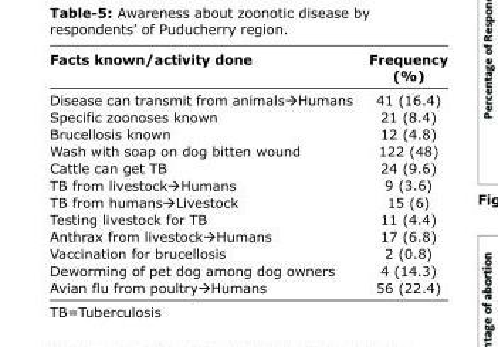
<table><thead><tr><td>Facts known/activity done</td><td>Frequency (%)</td></tr></thead><tbody><tr><td>Disease can transmit from animals→Humans</td><td>41 (16.4)</td></tr><tr><td>Specific zoonoses known</td><td>21 (8.4)</td></tr><tr><td>Brucellosis known</td><td>12 (4.8)</td></tr><tr><td>Wash with soap on dog bitten wound</td><td>122 (48)</td></tr><tr><td>Cattle can get TB</td><td>24 (9.6)</td></tr><tr><td>TB from livestock→Humans</td><td>9 (3.6)</td></tr><tr><td>TB from humans→Livestock</td><td>15 (6)</td></tr><tr><td>Testing livestock for TB</td><td>11 (4.4)</td></tr><tr><td>Anthrax from livestock→Humans</td><td>17 (6.8)</td></tr><tr><td>Vaccination for brucellosis</td><td>2 (0.8)</td></tr><tr><td>Deworming of pet dog among dog owners</td><td>4 (14.3)</td></tr><tr><td>Avian flu from poultry→Humans</td><td>56 (22.4)</td></tr></tbody></table>